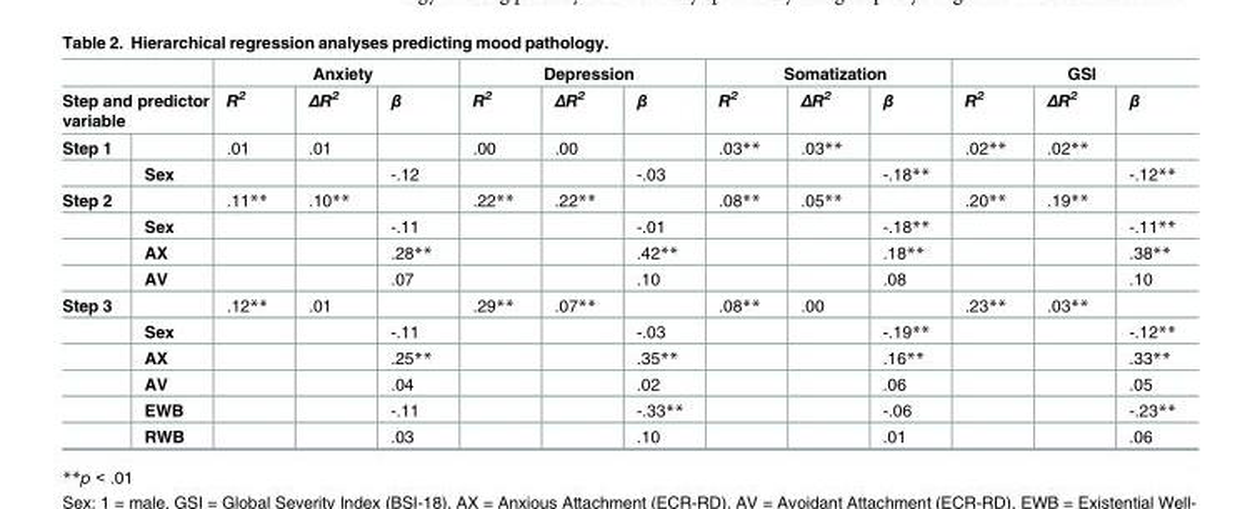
<table><thead><tr><td></td><td></td><td colspan="3">Anxiety</td><td colspan="3">Depression</td><td colspan="3">Somatization</td><td colspan="3">GSI</td></tr><tr><td colspan="2">Step and predictor variable</td><td>R<sup>2</sup></td><td>ΔR<sup>2</sup></td><td>β</td><td>R<sup>2</sup></td><td>ΔR<sup>2</sup></td><td>β</td><td>R<sup>2</sup></td><td>ΔR<sup>2</sup></td><td>β</td><td>R<sup>2</sup></td><td>ΔR<sup>2</sup></td><td>β</td></tr></thead><tbody><tr><td rowspan="2">Step 1</td><td></td><td>.01</td><td>.01</td><td></td><td>.00</td><td>.00</td><td></td><td>.03**</td><td>.03**</td><td></td><td>.02**</td><td>.02**</td><td></td></tr><tr><td>Sex</td><td></td><td></td><td>-.12</td><td></td><td></td><td>-.03</td><td></td><td></td><td>-.18**</td><td></td><td></td><td>-.12**</td></tr><tr><td rowspan="4">Step 2</td><td></td><td>.11**</td><td>.10**</td><td></td><td>.22**</td><td>.22**</td><td></td><td>.08**</td><td>.05**</td><td></td><td>.20**</td><td>.19**</td><td></td></tr><tr><td>Sex</td><td></td><td></td><td>-.11</td><td></td><td></td><td>-.01</td><td></td><td></td><td>-.18**</td><td></td><td></td><td>-.11**</td></tr><tr><td>AX</td><td></td><td></td><td>.28**</td><td></td><td></td><td>.42**</td><td></td><td></td><td>.18**</td><td></td><td></td><td>.38**</td></tr><tr><td>AV</td><td></td><td></td><td>.07</td><td></td><td></td><td>.10</td><td></td><td></td><td>.08</td><td></td><td></td><td>.10</td></tr><tr><td rowspan="6">Step 3</td><td></td><td>.12**</td><td>.01</td><td></td><td>.29**</td><td>.07**</td><td></td><td>.08**</td><td>.00</td><td></td><td>.23**</td><td>.03**</td><td></td></tr><tr><td>Sex</td><td></td><td></td><td>-.11</td><td></td><td></td><td>-.03</td><td></td><td></td><td>-.19**</td><td></td><td></td><td>-.12**</td></tr><tr><td>AX</td><td></td><td></td><td>.25**</td><td></td><td></td><td>.35**</td><td></td><td></td><td>.16**</td><td></td><td></td><td>.33**</td></tr><tr><td>AV</td><td></td><td></td><td>.04</td><td></td><td></td><td>.02</td><td></td><td></td><td>.06</td><td></td><td></td><td>.05</td></tr><tr><td>EWB</td><td></td><td></td><td>-.11</td><td></td><td></td><td>-.33**</td><td></td><td></td><td>-.06</td><td></td><td></td><td>-.23**</td></tr><tr><td>RWB</td><td></td><td></td><td>.03</td><td></td><td></td><td>.10</td><td></td><td></td><td>.01</td><td></td><td></td><td>.06</td></tr></tbody></table>